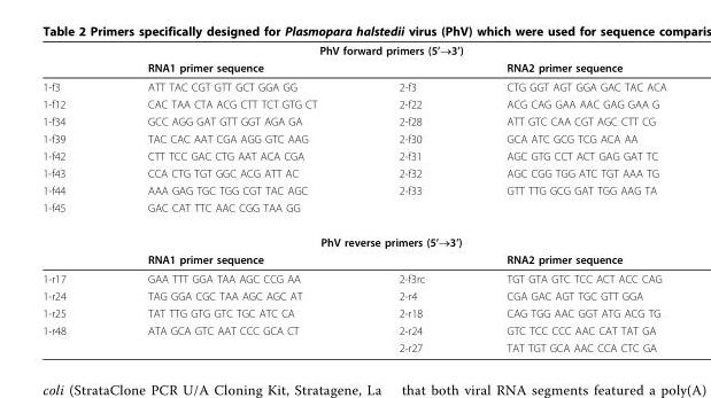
<table><thead><tr><td colspan="4">PhV forward primers (5’→3’)</td></tr><tr><td></td><td>RNA1 primer sequence</td><td></td><td>RNA2 primer sequence</td></tr></thead><tbody><tr><td>1-f3</td><td>ATT TAC CGT GTT GCT GGA GG</td><td>2-f3</td><td>CTG GGT AGT GGA GAC TAC ACA</td></tr><tr><td>1-f12</td><td>CAC TAA CTA ACG CTT TCT GTG CT</td><td>2-f22</td><td>ACG CAG GAA AAC GAG GAA G</td></tr><tr><td>1-f34</td><td>GCC AGG GAT GTT GGT AGA GA</td><td>2-f28</td><td>ATT GTC CAA CGT AGC CTT CG</td></tr><tr><td>1-f39</td><td>TAC CAC AAT CGA AGG GTC AAG</td><td>2-f30</td><td>GCA ATC GCG TCG ACA AA</td></tr><tr><td>1-f42</td><td>CTT TCC GAC CTG AAT ACA CGA</td><td>2-f31</td><td>AGC GTG CCT ACT GAG GAT TC</td></tr><tr><td>1-f43</td><td>CCA CTG TGT GGC ACG ATT AC</td><td>2-f32</td><td>AGC CGG TGG ATC TGT AAA TG</td></tr><tr><td>1-f44</td><td>AAA GAG TGC TGG CGT TAC AGC</td><td>2-f33</td><td>GTT TTG GCG GAT TGG AAG TA</td></tr><tr><td>1-f45</td><td>GAC CAT TTC AAC CGG TAA GG</td><td></td><td></td></tr><tr><td colspan="4">PhV reverse primers (5’→3’)</td></tr><tr><td></td><td>RNA1 primer sequence</td><td></td><td>RNA2 primer sequence</td></tr><tr><td>1-r17</td><td>GAA TTT GGA TAA AGC CCG AA</td><td>2-f3rc</td><td>TGT GTA GTC TCC ACT ACC CAG</td></tr><tr><td>1-r24</td><td>TAG GGA CGC TAA AGC AGC AT</td><td>2-r4</td><td>CGA GAC AGT TGC GTT GGA</td></tr><tr><td>1-r25</td><td>TAT TTG GTG GTC TGC ATC CA</td><td>2-r18</td><td>CAG TGG AAC GGT ATG ACG TG</td></tr><tr><td rowspan="2">1-r48</td><td>ATA GCA GTC AAT CCC GCA CT</td><td>2-r24</td><td>GTC TCC CCC AAC CAT TAT GA</td></tr><tr><td></td><td>2-r27</td><td>TAT TGT GCA AAC CCA CTC GA</td></tr></tbody></table>